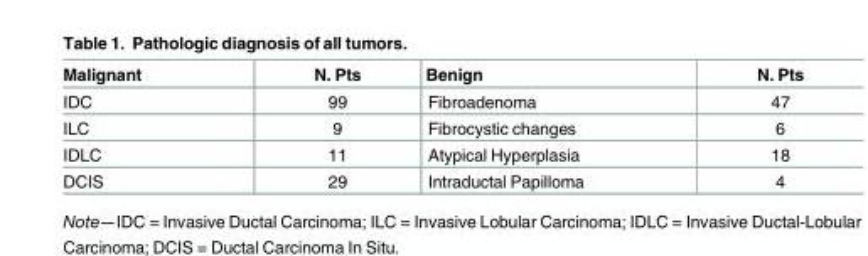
<table><thead><tr><td>Malignant</td><td>N. Pts</td><td>Benign</td><td>N. Pts</td></tr></thead><tbody><tr><td>IDC</td><td>99</td><td>Fibroadenoma</td><td>47</td></tr><tr><td>ILC</td><td>9</td><td>Fibrocystic changes</td><td>6</td></tr><tr><td>IDLC</td><td>11</td><td>Atypical Hyperplasia</td><td>18</td></tr><tr><td>DCIS</td><td>29</td><td>Intraductal Papilloma</td><td>4</td></tr></tbody></table>